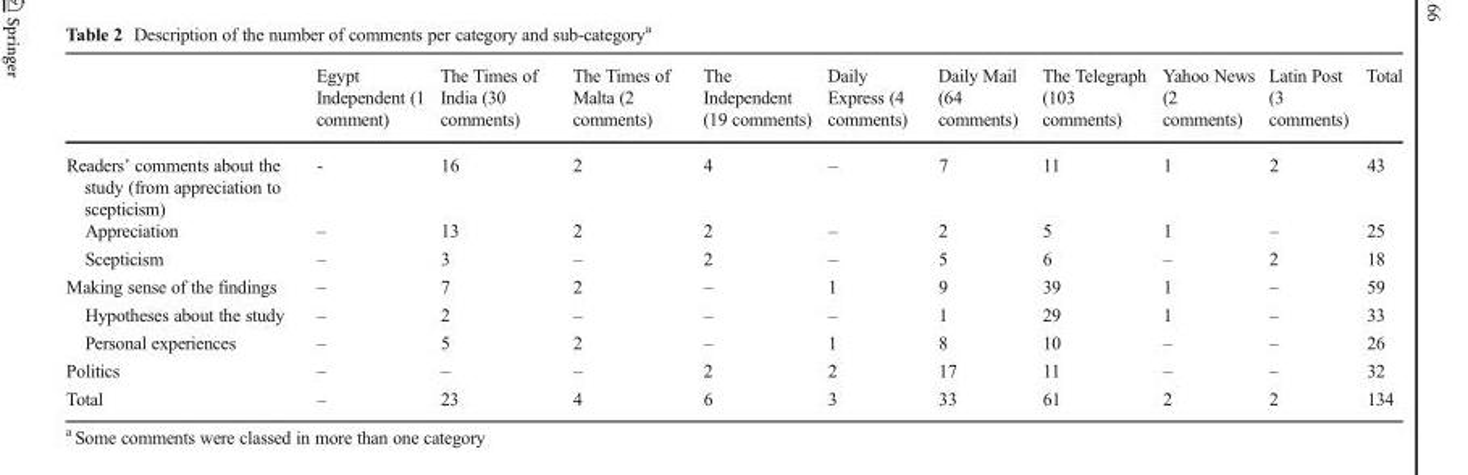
<table><thead><tr><td></td><td>Egypt Independent (1 comment)</td><td>The Times of India (30 comments)</td><td>The Times of Malta (2 comments)</td><td>The Independent (19 comments)</td><td>Daily Express (4 comments)</td><td>Daily Mail (64 comments)</td><td>The Telegraph (103 comments)</td><td>Yahoo News (2 comments)</td><td>Latin Post (3 comments)</td><td>Total</td></tr></thead><tbody><tr><td>Readers’ comments about the study (from appreciation to scepticism)</td><td>-</td><td>16</td><td>2</td><td>4</td><td>–</td><td>7</td><td>11</td><td>1</td><td>2</td><td>43</td></tr><tr><td>Appreciation</td><td>–</td><td>13</td><td>2</td><td>2</td><td>–</td><td>2</td><td>5</td><td>1</td><td>–</td><td>25</td></tr><tr><td>Scepticism</td><td>–</td><td>3</td><td>–</td><td>2</td><td>–</td><td>5</td><td>6</td><td>–</td><td>2</td><td>18</td></tr><tr><td>Making sense of the findings</td><td>–</td><td>7</td><td>2</td><td>–</td><td>1</td><td>9</td><td>39</td><td>1</td><td>–</td><td>59</td></tr><tr><td>Hypotheses about the study</td><td>–</td><td>2</td><td>–</td><td>–</td><td>–</td><td>1</td><td>29</td><td>1</td><td>–</td><td>33</td></tr><tr><td>Personal experiences</td><td>–</td><td>5</td><td>2</td><td>–</td><td>1</td><td>8</td><td>10</td><td>–</td><td>–</td><td>26</td></tr><tr><td>Politics</td><td>–</td><td>–</td><td>–</td><td>2</td><td>2</td><td>17</td><td>11</td><td>–</td><td>–</td><td>32</td></tr><tr><td>Total</td><td>–</td><td>23</td><td>4</td><td>6</td><td>3</td><td>33</td><td>61</td><td>2</td><td>2</td><td>134</td></tr></tbody></table>